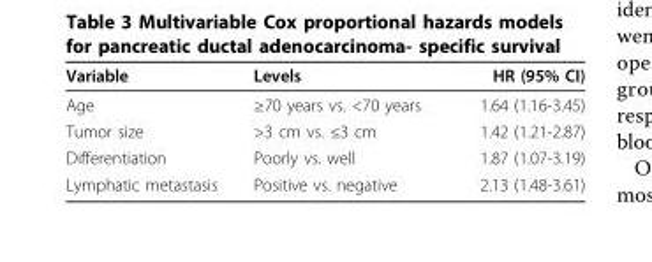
<table><thead><tr><td>Variable</td><td>Levels</td><td>HR (95% CI)</td></tr></thead><tbody><tr><td>Age</td><td>≥70 years vs. &lt;70 years</td><td>1.64 (1.16-3.45)</td></tr><tr><td>Tumor size</td><td>&gt;3 cm vs. ≤3 cm</td><td>1.42 (1.21-2.87)</td></tr><tr><td>Differentiation</td><td>Poorly vs. well</td><td>1.87 (1.07-3.19)</td></tr><tr><td>Lymphatic metastasis</td><td>Positive vs. negative</td><td>2.13 (1.48-3.61)</td></tr></tbody></table>